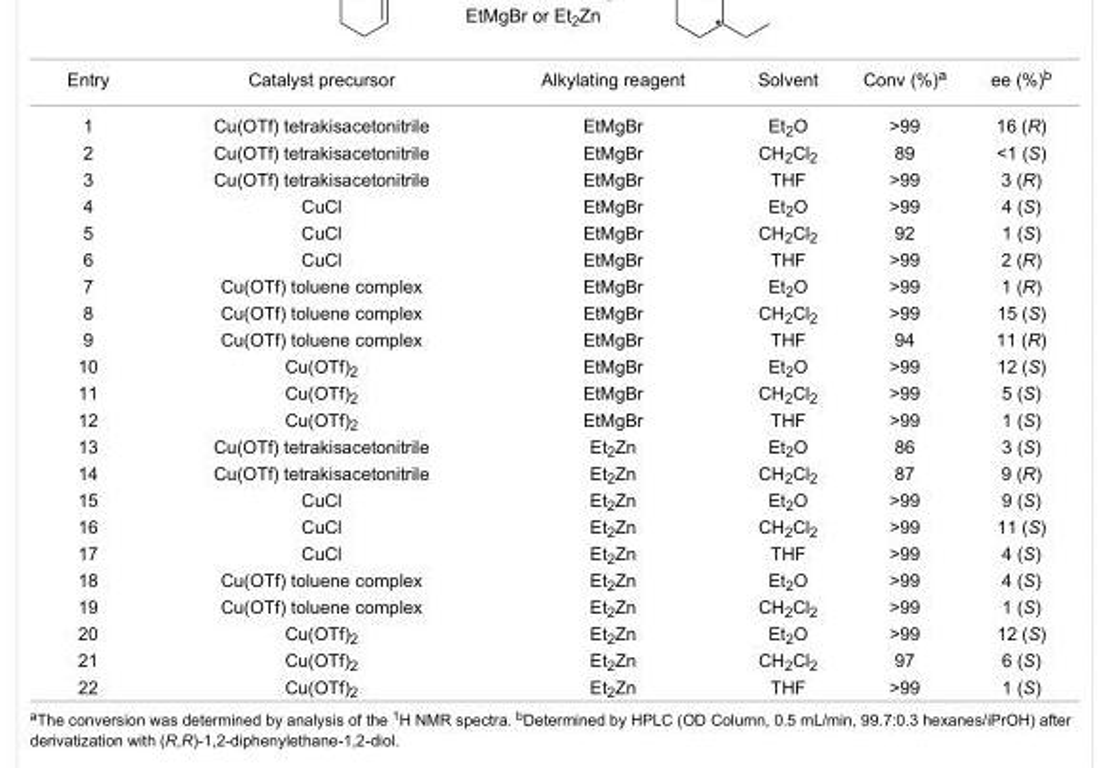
<table><tbody><tr><td>Entry</td><td>Catalyst precursor</td><td>Alkylating reagent</td><td>Solvent</td><td>Conv (%)<sup>a</sup></td><td>ee (%)<sup>b</sup></td></tr><tr><td>1</td><td>Cu(OTf) tetrakisacetonitrile</td><td>EtMgBr</td><td>Et<sub>2</sub>O</td><td>&gt;99</td><td>16 (R)</td></tr><tr><td>2</td><td>Cu(OTf) tetrakisacetonitrile</td><td>EtMgBr</td><td>CH<sub>2</sub>Cl<sub>2</sub></td><td>89</td><td>&lt;1 (S)</td></tr><tr><td>3</td><td>Cu(OTf) tetrakisacetonitrile</td><td>EtMgBr</td><td>THF</td><td>&gt;99</td><td>3 (R)</td></tr><tr><td>4</td><td>CuCl</td><td>EtMgBr</td><td>Et<sub>2</sub>O</td><td>&gt;99</td><td>4 (S)</td></tr><tr><td>5</td><td>CuCl</td><td>EtMgBr</td><td>CH<sub>2</sub>Cl<sub>2</sub></td><td>92</td><td>1 (S)</td></tr><tr><td>6</td><td>CuCl</td><td>EtMgBr</td><td>THF</td><td>&gt;99</td><td>2 (R)</td></tr><tr><td>7</td><td>Cu(OTf) toluene complex</td><td>EtMgBr</td><td>Et<sub>2</sub>O</td><td>&gt;99</td><td>1 (R)</td></tr><tr><td>8</td><td>Cu(OTf) toluene complex</td><td>EtMgBr</td><td>CH<sub>2</sub>Cl<sub>2</sub></td><td>&gt;99</td><td>15 (S)</td></tr><tr><td>9</td><td>Cu(OTf) toluene complex</td><td>EtMgBr</td><td>THF</td><td>94</td><td>11 (R)</td></tr><tr><td>10</td><td>Cu(OTf)<sub>2</sub></td><td>EtMgBr</td><td>Et<sub>2</sub>O</td><td>&gt;99</td><td>12 (S)</td></tr><tr><td>11</td><td>Cu(OTf)<sub>2</sub></td><td>EtMgBr</td><td>CH<sub>2</sub>Cl<sub>2</sub></td><td>&gt;99</td><td>5 (S)</td></tr><tr><td>12</td><td>Cu(OTf)<sub>2</sub></td><td>EtMgBr</td><td>THF</td><td>&gt;99</td><td>1 (S)</td></tr><tr><td>13</td><td>Cu(OTf) tetrakisacetonitrile</td><td>Et<sub>2</sub>Zn</td><td>Et<sub>2</sub>O</td><td>86</td><td>3 (S)</td></tr><tr><td>14</td><td>Cu(OTf) tetrakisacetonitrile</td><td>Et<sub>2</sub>Zn</td><td>CH<sub>2</sub>Cl<sub>2</sub></td><td>87</td><td>9 (R)</td></tr><tr><td>15</td><td>CuCl</td><td>Et<sub>2</sub>Zn</td><td>Et<sub>2</sub>O</td><td>&gt;99</td><td>9 (S)</td></tr><tr><td>16</td><td>CuCl</td><td>Et<sub>2</sub>Zn</td><td>CH<sub>2</sub>Cl<sub>2</sub></td><td>&gt;99</td><td>11 (S)</td></tr><tr><td>17</td><td>CuCl</td><td>Et<sub>2</sub>Zn</td><td>THF</td><td>&gt;99</td><td>4 (S)</td></tr><tr><td>18</td><td>Cu(OTf) toluene complex</td><td>Et<sub>2</sub>Zn</td><td>Et<sub>2</sub>O</td><td>&gt;99</td><td>4 (S)</td></tr><tr><td>19</td><td>Cu(OTf) toluene complex</td><td>Et<sub>2</sub>Zn</td><td>CH<sub>2</sub>Cl<sub>2</sub></td><td>&gt;99</td><td>1 (S)</td></tr><tr><td>20</td><td>Cu(OTf)<sub>2</sub></td><td>Et<sub>2</sub>Zn</td><td>Et<sub>2</sub>O</td><td>&gt;99</td><td>12 (S)</td></tr><tr><td>21</td><td>Cu(OTf)<sub>2</sub></td><td>Et<sub>2</sub>Zn</td><td>CH<sub>2</sub>Cl<sub>2</sub></td><td>97</td><td>6 (S)</td></tr><tr><td>22</td><td>Cu(OTf)<sub>2</sub></td><td>Et<sub>2</sub>Zn</td><td>THF</td><td>&gt;99</td><td>1 (S)</td></tr></tbody></table>